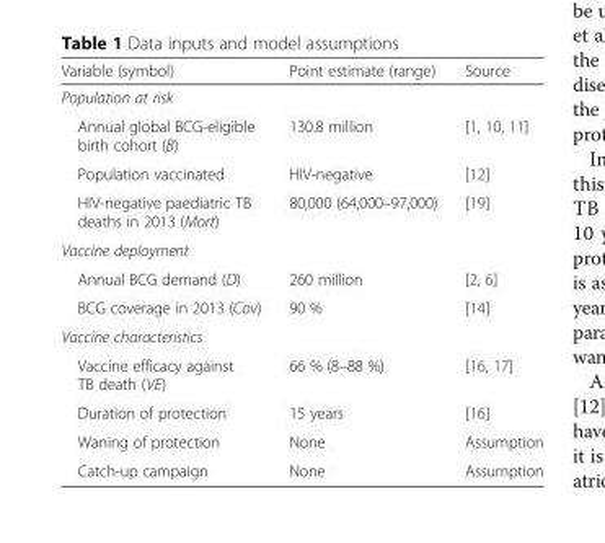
<table><thead><tr><td>Variable (symbol)</td><td>Point estimate (range)</td><td>Source</td></tr></thead><tbody><tr><td colspan="3">Population at risk</td></tr><tr><td>Annual global BCG-eligible birth cohort (B)</td><td>130.8 million</td><td>[1, 10, 11]</td></tr><tr><td>Population vaccinated</td><td>HIV-negative</td><td>[12]</td></tr><tr><td>HIV-negative paediatric TB deaths in 2013 (Mort)</td><td>80,000 (64,000–97,000)</td><td>[19]</td></tr><tr><td colspan="3">Vaccine deployment</td></tr><tr><td>Annual BCG demand (D)</td><td>260 million</td><td>[2, 6]</td></tr><tr><td>BCG coverage in 2013 (Cov)</td><td>90 %</td><td>[14]</td></tr><tr><td colspan="3">Vaccine characteristics</td></tr><tr><td>Vaccine efficacy against TB death (VE)</td><td>66 % (8–88 %)</td><td>[16, 17]</td></tr><tr><td>Duration of protection</td><td>15 years</td><td>[16]</td></tr><tr><td>Waning of protection</td><td>None</td><td>Assumption</td></tr><tr><td>Catch-up campaign</td><td>None</td><td>Assumption</td></tr></tbody></table>